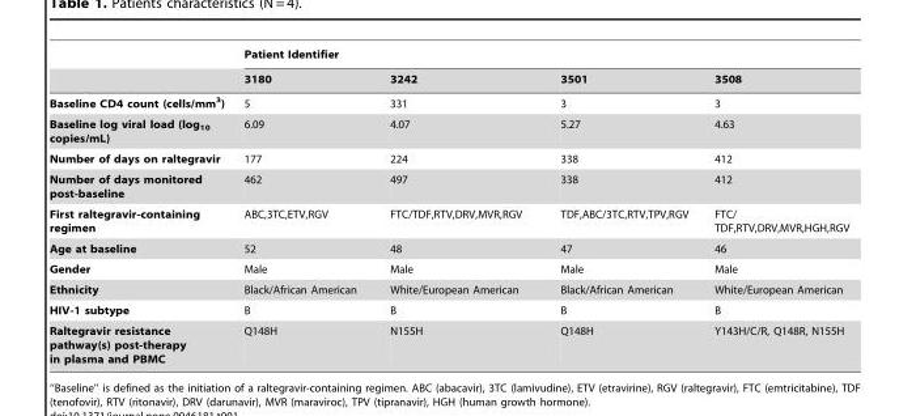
<table><thead><tr><td rowspan="2"></td><td colspan="4">Patient Identifier</td></tr><tr><td>3180</td><td>3242</td><td>3501</td><td>3508</td></tr></thead><tbody><tr><td>Baseline CD4 count (cells/mm<sup>3</sup>)</td><td>5</td><td>331</td><td>3</td><td>3</td></tr><tr><td>Baseline log viral load (log<sub>10</sub> copies/mL)</td><td>6.09</td><td>4.07</td><td>5.27</td><td>4.63</td></tr><tr><td>Number of days on raltegravir</td><td>177</td><td>224</td><td>338</td><td>412</td></tr><tr><td>Number of days monitored post-baseline</td><td>462</td><td>497</td><td>338</td><td>412</td></tr><tr><td>First raltegravir-containing regimen</td><td>ABC,3TC,ETV,RGV</td><td>FTC/TDF,RTV,DRV,MVR,RGV</td><td>TDF,ABC/3TC,RTV,TPV,RGV</td><td>FTC/ TDF,RTV,DRV,MVR,HGH,RGV</td></tr><tr><td>Age at baseline</td><td>52</td><td>48</td><td>47</td><td>46</td></tr><tr><td>Gender</td><td>Male</td><td>Male</td><td>Male</td><td>Male</td></tr><tr><td>Ethnicity</td><td>Black/African American</td><td>White/European American</td><td>Black/African American</td><td>White/European American</td></tr><tr><td>HIV-1 subtype</td><td>B</td><td>B</td><td>B</td><td>B</td></tr><tr><td>Raltegravir resistance pathway(s) post-therapy in plasma and PBMC</td><td>Q148H</td><td>N155H</td><td>Q148H</td><td>Y143H/C/R, Q148R, N155H</td></tr></tbody></table>